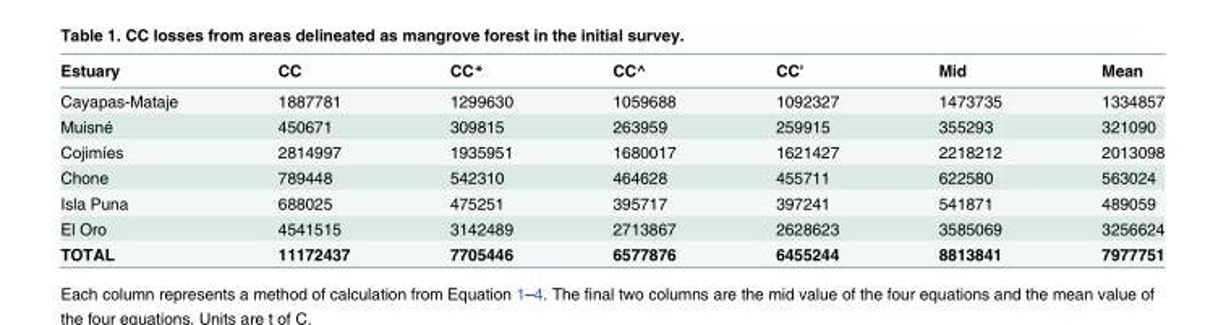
<table><thead><tr><td>Estuary</td><td>CC</td><td>CC*</td><td>CC^</td><td>CC&#x27;</td><td>Mid</td><td>Mean</td></tr></thead><tbody><tr><td>Cayapas-Mataje</td><td>1887781</td><td>1299630</td><td>1059688</td><td>1092327</td><td>1473735</td><td>1334857</td></tr><tr><td>Muisné</td><td>450671</td><td>309815</td><td>263959</td><td>259915</td><td>355293</td><td>321090</td></tr><tr><td>Cojimíes</td><td>2814997</td><td>1935951</td><td>1680017</td><td>1621427</td><td>2218212</td><td>2013098</td></tr><tr><td>Chone</td><td>789448</td><td>542310</td><td>464628</td><td>455711</td><td>622580</td><td>563024</td></tr><tr><td>Isla Puna</td><td>688025</td><td>475251</td><td>395717</td><td>397241</td><td>541871</td><td>489059</td></tr><tr><td>El Oro</td><td>4541515</td><td>3142489</td><td>2713867</td><td>2628623</td><td>3585069</td><td>3256624</td></tr><tr><td>TOTAL</td><td>11172437</td><td>7705446</td><td>6577876</td><td>6455244</td><td>8813841</td><td>7977751</td></tr></tbody></table>